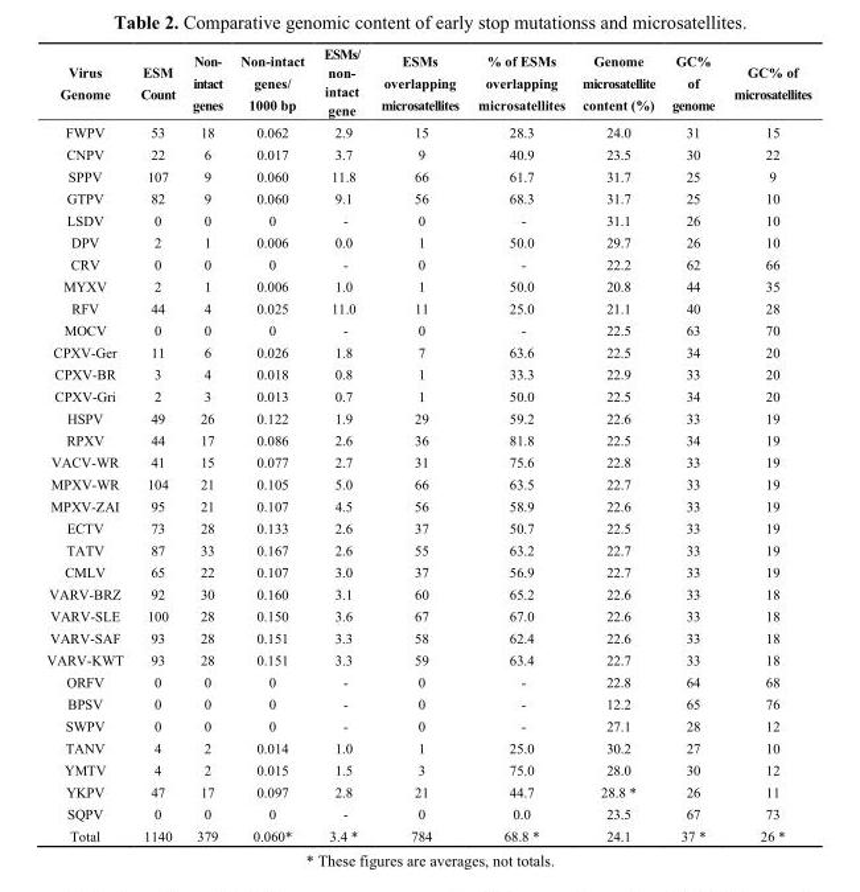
<table><thead><tr><td>Virus Genome</td><td>ESM Count</td><td>Non- intact genes</td><td>Non-intact genes/ 1000 bp</td><td>ESMs/ non- intact gene</td><td>ESMs overlapping microsatellites</td><td>% of ESMs overlapping microsatellites</td><td>Genome microsatellite content (%)</td><td>GC% of genome</td><td>GC% of microsatellites</td></tr></thead><tbody><tr><td>FWPV</td><td>53</td><td>18</td><td>0.062</td><td>2.9</td><td>15</td><td>28.3</td><td>24.0</td><td>31</td><td>15</td></tr><tr><td>CNPV</td><td>22</td><td>6</td><td>0.017</td><td>3.7</td><td>9</td><td>40.9</td><td>23.5</td><td>30</td><td>22</td></tr><tr><td>SPPV</td><td>107</td><td>9</td><td>0.060</td><td>11.8</td><td>66</td><td>61.7</td><td>31.7</td><td>25</td><td>9</td></tr><tr><td>GTPV</td><td>82</td><td>9</td><td>0.060</td><td>9.1</td><td>56</td><td>68.3</td><td>31.7</td><td>25</td><td>10</td></tr><tr><td>LSDV</td><td>0</td><td>0</td><td>0</td><td>-</td><td>0</td><td>-</td><td>31.1</td><td>26</td><td>10</td></tr><tr><td>DPV</td><td>2</td><td>1</td><td>0.006</td><td>0.0</td><td>1</td><td>50.0</td><td>29.7</td><td>26</td><td>10</td></tr><tr><td>CRV</td><td>0</td><td>0</td><td>0</td><td>-</td><td>0</td><td>-</td><td>22.2</td><td>62</td><td>66</td></tr><tr><td>MYXV</td><td>2</td><td>1</td><td>0.006</td><td>1.0</td><td>1</td><td>50.0</td><td>20.8</td><td>44</td><td>35</td></tr><tr><td>RFV</td><td>44</td><td>4</td><td>0.025</td><td>11.0</td><td>11</td><td>25.0</td><td>21.1</td><td>40</td><td>28</td></tr><tr><td>MOCV</td><td>0</td><td>0</td><td>0</td><td>-</td><td>0</td><td>-</td><td>22.5</td><td>63</td><td>70</td></tr><tr><td>CPXV-Ger</td><td>11</td><td>6</td><td>0.026</td><td>1.8</td><td>7</td><td>63.6</td><td>22.5</td><td>34</td><td>20</td></tr><tr><td>CPXV-BR</td><td>3</td><td>4</td><td>0.018</td><td>0.8</td><td>1</td><td>33.3</td><td>22.9</td><td>33</td><td>20</td></tr><tr><td>CPXV-Gri</td><td>2</td><td>3</td><td>0.013</td><td>0.7</td><td>1</td><td>50.0</td><td>22.5</td><td>34</td><td>20</td></tr><tr><td>HSPV</td><td>49</td><td>26</td><td>0.122</td><td>1.9</td><td>29</td><td>59.2</td><td>22.6</td><td>33</td><td>19</td></tr><tr><td>RPXV</td><td>44</td><td>17</td><td>0.086</td><td>2.6</td><td>36</td><td>81.8</td><td>22.5</td><td>34</td><td>19</td></tr><tr><td>VACV-WR</td><td>41</td><td>15</td><td>0.077</td><td>2.7</td><td>31</td><td>75.6</td><td>22.8</td><td>33</td><td>19</td></tr><tr><td>MPXV-WR</td><td>104</td><td>21</td><td>0.105</td><td>5.0</td><td>66</td><td>63.5</td><td>22.7</td><td>33</td><td>19</td></tr><tr><td>MPXV-ZAI</td><td>95</td><td>21</td><td>0.107</td><td>4.5</td><td>56</td><td>58.9</td><td>22.6</td><td>33</td><td>19</td></tr><tr><td>ECTV</td><td>73</td><td>28</td><td>0.133</td><td>2.6</td><td>37</td><td>50.7</td><td>22.5</td><td>33</td><td>19</td></tr><tr><td>TATV</td><td>87</td><td>33</td><td>0.167</td><td>2.6</td><td>55</td><td>63.2</td><td>22.7</td><td>33</td><td>19</td></tr><tr><td>CMLV</td><td>65</td><td>22</td><td>0.107</td><td>3.0</td><td>37</td><td>56.9</td><td>22.7</td><td>33</td><td>19</td></tr><tr><td>VARV-BRZ</td><td>92</td><td>30</td><td>0.160</td><td>3.1</td><td>60</td><td>65.2</td><td>22.6</td><td>33</td><td>18</td></tr><tr><td>VARV-SLE</td><td>100</td><td>28</td><td>0.150</td><td>3.6</td><td>67</td><td>67.0</td><td>22.6</td><td>33</td><td>18</td></tr><tr><td>VARV-SAF</td><td>93</td><td>28</td><td>0.151</td><td>3.3</td><td>58</td><td>62.4</td><td>22.6</td><td>33</td><td>18</td></tr><tr><td>VARV-KWT</td><td>93</td><td>28</td><td>0.151</td><td>3.3</td><td>59</td><td>63.4</td><td>22.7</td><td>33</td><td>18</td></tr><tr><td>ORFV</td><td>0</td><td>0</td><td>0</td><td>-</td><td>0</td><td>-</td><td>22.8</td><td>64</td><td>68</td></tr><tr><td>BPSV</td><td>0</td><td>0</td><td>0</td><td>-</td><td>0</td><td>-</td><td>12.2</td><td>65</td><td>76</td></tr><tr><td>SWPV</td><td>0</td><td>0</td><td>0</td><td>-</td><td>0</td><td>-</td><td>27.1</td><td>28</td><td>12</td></tr><tr><td>TANV</td><td>4</td><td>2</td><td>0.014</td><td>1.0</td><td>1</td><td>25.0</td><td>30.2</td><td>27</td><td>10</td></tr><tr><td>YMTV</td><td>4</td><td>2</td><td>0.015</td><td>1.5</td><td>3</td><td>75.0</td><td>28.0</td><td>30</td><td>12</td></tr><tr><td>YKPV</td><td>47</td><td>17</td><td>0.097</td><td>2.8</td><td>21</td><td>44.7</td><td>28.8 *</td><td>26</td><td>11</td></tr><tr><td>SQPV</td><td>0</td><td>0</td><td>0</td><td>-</td><td>0</td><td>0.0</td><td>23.5</td><td>67</td><td>73</td></tr><tr><td>Total</td><td>1140</td><td>379</td><td>0.060*</td><td>3.4 *</td><td>784</td><td>68.8 *</td><td>24.1</td><td>37 *</td><td>26 *</td></tr></tbody></table>